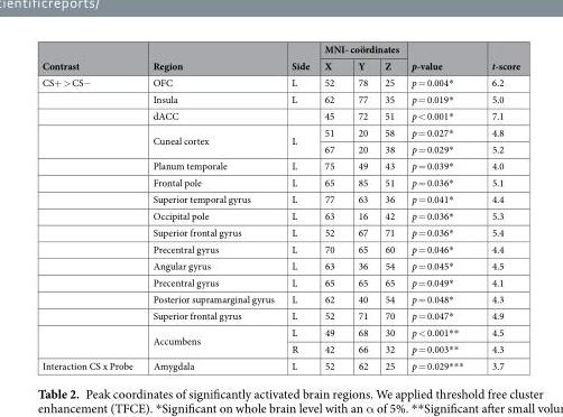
<table><thead><tr><td rowspan="2">Contrast</td><td rowspan="2">Region</td><td rowspan="2">Side</td><td colspan="3">MNI- coördinates</td><td rowspan="2">p-value</td><td rowspan="2">t-score</td></tr><tr><td>X</td><td>Y</td><td>Z</td></tr></thead><tbody><tr><td rowspan="17">CS+ &gt; CS−</td><td>OFC</td><td>L</td><td>52</td><td>78</td><td>25</td><td>p = 0.004*</td><td>6.2</td></tr><tr><td>Insula</td><td>L</td><td>62</td><td>77</td><td>35</td><td>p = 0.019*</td><td>5.0</td></tr><tr><td>dACC</td><td></td><td>45</td><td>72</td><td>51</td><td>p &lt; 0.001*</td><td>7.1</td></tr><tr><td rowspan="2">Cuneal cortex</td><td rowspan="2">L</td><td>51</td><td>20</td><td>58</td><td>p = 0.027*</td><td>4.8</td></tr><tr><td>67</td><td>20</td><td>38</td><td>p = 0.029*</td><td>5.2</td></tr><tr><td>Planum temporale</td><td>L</td><td>75</td><td>49</td><td>43</td><td>p = 0.039*</td><td>4.0</td></tr><tr><td>Frontal pole</td><td>L</td><td>65</td><td>85</td><td>51</td><td>p = 0.036*</td><td>5.1</td></tr><tr><td>Superior temporal gyrus</td><td>L</td><td>77</td><td>63</td><td>36</td><td>p = 0.041*</td><td>4.4</td></tr><tr><td>Occipital pole</td><td>L</td><td>63</td><td>16</td><td>42</td><td>p = 0.036*</td><td>5.3</td></tr><tr><td>Superior frontal gyrus</td><td>L</td><td>52</td><td>67</td><td>71</td><td>p = 0.036*</td><td>5.4</td></tr><tr><td>Precentral gyrus</td><td>L</td><td>70</td><td>65</td><td>60</td><td>p = 0.046*</td><td>4.4</td></tr><tr><td>Angular gyrus</td><td>L</td><td>63</td><td>36</td><td>54</td><td>p = 0.045*</td><td>4.5</td></tr><tr><td>Precentral gyrus</td><td>L</td><td>65</td><td>65</td><td>65</td><td>p = 0.049*</td><td>4.1</td></tr><tr><td>Posterior supramarginal gyrus</td><td>L</td><td>62</td><td>40</td><td>54</td><td>p = 0.048*</td><td>4.3</td></tr><tr><td>Superior frontal gyrus</td><td>L</td><td>52</td><td>71</td><td>70</td><td>p = 0.047*</td><td>4.9</td></tr><tr><td rowspan="2">Accumbens</td><td>L</td><td>49</td><td>68</td><td>30</td><td>p &lt; 0.001**</td><td>4.5</td></tr><tr><td>R</td><td>42</td><td>66</td><td>32</td><td>p = 0.003**</td><td>4.3</td></tr><tr><td>Interaction CS x Probe</td><td>Amygdala</td><td>L</td><td>52</td><td>62</td><td>25</td><td>p = 0.029***</td><td>3.7</td></tr></tbody></table>